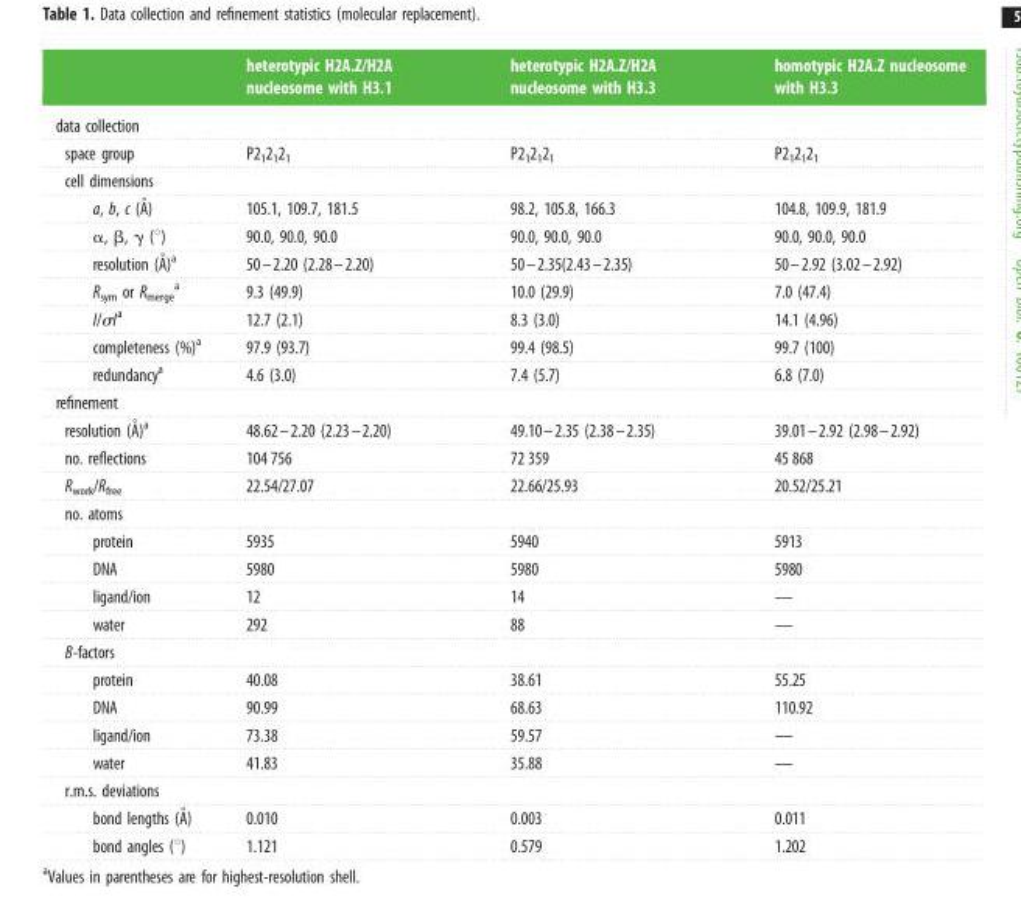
<table><thead><tr><td></td><td>heterotypic H2A.Z/H2A nucleosome with H3.1</td><td>heterotypic H2A.Z/H2A nucleosome with H3.3</td><td>homotypic H2A.Z nucleosome with H3.3</td></tr></thead><tbody><tr><td colspan="4">data collection</td></tr><tr><td>space group</td><td>P2<sub>1</sub>2<sub>1</sub>2<sub>1</sub></td><td>P2<sub>1</sub>2<sub>1</sub>2<sub>1</sub></td><td>P2<sub>1</sub>2<sub>1</sub>2<sub>1</sub></td></tr><tr><td colspan="4">cell dimensions</td></tr><tr><td>a, b, c (A˚)</td><td>105.1, 109.7, 181.5</td><td>98.2, 105.8, 166.3</td><td>104.8, 109.9, 181.9</td></tr><tr><td>α, β, γ (°)</td><td>90.0, 90.0, 90.0</td><td>90.0, 90.0, 90.0</td><td>90.0, 90.0, 90.0</td></tr><tr><td>resolution (A˚)a</td><td>50–2.20 (2.28–2.20)</td><td>50–2.35(2.43–2.35)</td><td>50–2.92 (3.02–2.92)</td></tr><tr><td>R<sub>sym</sub> or R<sub>merge</sub> <sup>a</sup></td><td>9.3 (49.9)</td><td>10.0 (29.9)</td><td>7.0 (47.4)</td></tr><tr><td>I/σI<sup>a</sup></td><td>12.7 (2.1)</td><td>8.3 (3.0)</td><td>14.1 (4.96)</td></tr><tr><td>completeness (%)<sup>a</sup></td><td>97.9 (93.7)</td><td>99.4 (98.5)</td><td>99.7 (100)</td></tr><tr><td>redundancy<sup>a</sup></td><td>4.6 (3.0)</td><td>7.4 (5.7)</td><td>6.8 (7.0)</td></tr><tr><td colspan="4">refinement</td></tr><tr><td>resolution (A˚)a</td><td>48.62–2.20 (2.23–2.20)</td><td>49.10–2.35 (2.38–2.35)</td><td>39.01–2.92 (2.98–2.92)</td></tr><tr><td>no. reflections</td><td>104 756</td><td>72 359</td><td>45 868</td></tr><tr><td>R<sub>work</sub>/R<sub>free</sub></td><td>22.54/27.07</td><td>22.66/25.93</td><td>20.52/25.21</td></tr><tr><td colspan="4">no. atoms</td></tr><tr><td>protein</td><td>5935</td><td>5940</td><td>5913</td></tr><tr><td>DNA</td><td>5980</td><td>5980</td><td>5980</td></tr><tr><td>ligand/ion</td><td>12</td><td>14</td><td>—</td></tr><tr><td>water</td><td>292</td><td>88</td><td>—</td></tr><tr><td colspan="4">B-factors</td></tr><tr><td>protein</td><td>40.08</td><td>38.61</td><td>55.25</td></tr><tr><td>DNA</td><td>90.99</td><td>68.63</td><td>110.92</td></tr><tr><td>ligand/ion</td><td>73.38</td><td>59.57</td><td>—</td></tr><tr><td>water</td><td>41.83</td><td>35.88</td><td>—</td></tr><tr><td colspan="4">r.m.s. deviations</td></tr><tr><td>bond lengths (A˚)</td><td>0.010</td><td>0.003</td><td>0.011</td></tr><tr><td>bond angles (°)</td><td>1.121</td><td>0.579</td><td>1.202</td></tr></tbody></table>